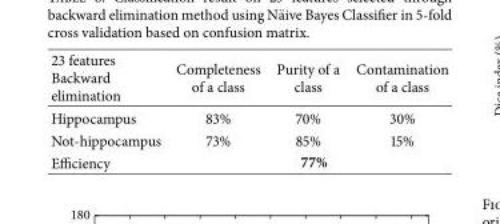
<table><thead><tr><td>23 features Backward elimination</td><td>Completeness of a class</td><td>Purity of a class</td><td>Contamination of a class</td></tr></thead><tbody><tr><td>Hippocampus</td><td>83%</td><td>70%</td><td>30%</td></tr><tr><td>Not-hippocampus</td><td>73%</td><td>85%</td><td>15%</td></tr><tr><td>Efficiency</td><td colspan="3">77%</td></tr></tbody></table>